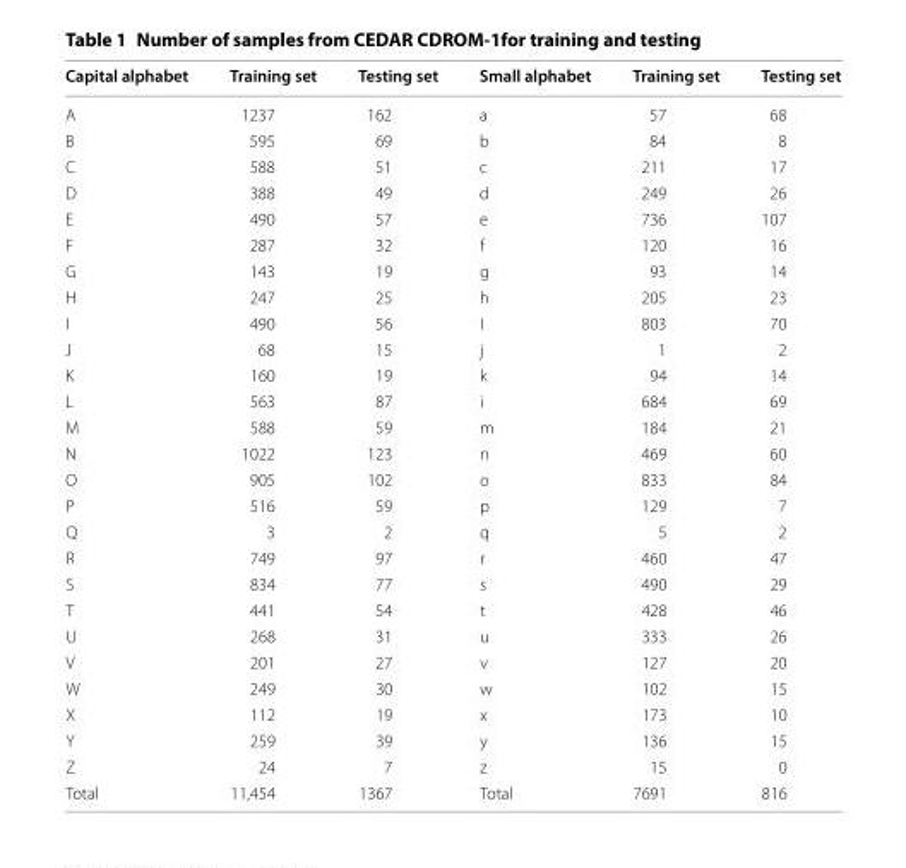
<table><thead><tr><td>Capital alphabet</td><td>Training set</td><td>Testing set</td><td>Small alphabet</td><td>Training set</td><td>Testing set</td></tr></thead><tbody><tr><td>A</td><td>1237</td><td>162</td><td>a</td><td>57</td><td>68</td></tr><tr><td>B</td><td>595</td><td>69</td><td>b</td><td>84</td><td>8</td></tr><tr><td>C</td><td>588</td><td>51</td><td>c</td><td>211</td><td>17</td></tr><tr><td>D</td><td>388</td><td>49</td><td>d</td><td>249</td><td>26</td></tr><tr><td>E</td><td>490</td><td>57</td><td>e</td><td>736</td><td>107</td></tr><tr><td>F</td><td>287</td><td>32</td><td>f</td><td>120</td><td>16</td></tr><tr><td>G</td><td>143</td><td>19</td><td>g</td><td>93</td><td>14</td></tr><tr><td>H</td><td>247</td><td>25</td><td>h</td><td>205</td><td>23</td></tr><tr><td>I</td><td>490</td><td>56</td><td>I</td><td>803</td><td>70</td></tr><tr><td>J</td><td>68</td><td>15</td><td>j</td><td>1</td><td>2</td></tr><tr><td>K</td><td>160</td><td>19</td><td>k</td><td>94</td><td>14</td></tr><tr><td>L</td><td>563</td><td>87</td><td>i</td><td>684</td><td>69</td></tr><tr><td>M</td><td>588</td><td>59</td><td>m</td><td>184</td><td>21</td></tr><tr><td>N</td><td>1022</td><td>123</td><td>n</td><td>469</td><td>60</td></tr><tr><td>O</td><td>905</td><td>102</td><td>o</td><td>833</td><td>84</td></tr><tr><td>P</td><td>516</td><td>59</td><td>p</td><td>129</td><td>7</td></tr><tr><td>Q</td><td>3</td><td>2</td><td>q</td><td>5</td><td>2</td></tr><tr><td>R</td><td>749</td><td>97</td><td>r</td><td>460</td><td>47</td></tr><tr><td>S</td><td>834</td><td>77</td><td>s</td><td>490</td><td>29</td></tr><tr><td>T</td><td>441</td><td>54</td><td>t</td><td>428</td><td>46</td></tr><tr><td>U</td><td>268</td><td>31</td><td>u</td><td>333</td><td>26</td></tr><tr><td>V</td><td>201</td><td>27</td><td>v</td><td>127</td><td>20</td></tr><tr><td>W</td><td>249</td><td>30</td><td>w</td><td>102</td><td>15</td></tr><tr><td>X</td><td>112</td><td>19</td><td>x</td><td>173</td><td>10</td></tr><tr><td>Y</td><td>259</td><td>39</td><td>y</td><td>136</td><td>15</td></tr><tr><td>Z</td><td>24</td><td>7</td><td>z</td><td>15</td><td>0</td></tr><tr><td>Total</td><td>11,454</td><td>1367</td><td>Total</td><td>7691</td><td>816</td></tr></tbody></table>